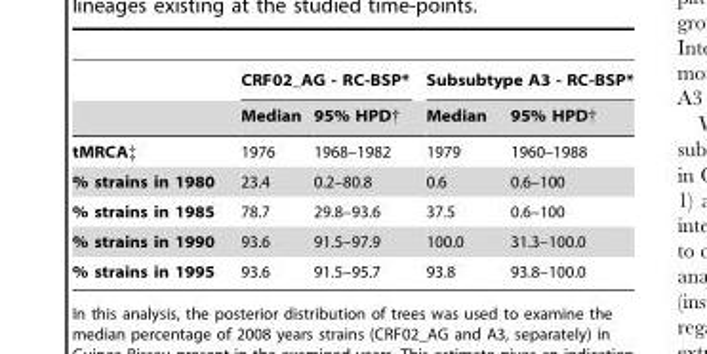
<table><thead><tr><td rowspan="2"></td><td colspan="2">CRF02_AG - RC-BSP*</td><td colspan="2">Subsubtype A3 - RC-BSP*</td></tr><tr><td>Median</td><td>95% HPD†</td><td>Median</td><td>95% HPD†</td></tr></thead><tbody><tr><td>tMRCA‡</td><td>1976</td><td>1968–1982</td><td>1979</td><td>1960–1988</td></tr><tr><td>% strains in 1980</td><td>23.4</td><td>0.2–80.8</td><td>0.6</td><td>0.6–100</td></tr><tr><td>% strains in 1985</td><td>78.7</td><td>29.8–93.6</td><td>37.5</td><td>0.6–100</td></tr><tr><td>% strains in 1990</td><td>93.6</td><td>91.5–97.9</td><td>100.0</td><td>31.3–100.0</td></tr><tr><td>% strains in 1995</td><td>93.6</td><td>91.5–95.7</td><td>93.8</td><td>93.8–100.0</td></tr></tbody></table>